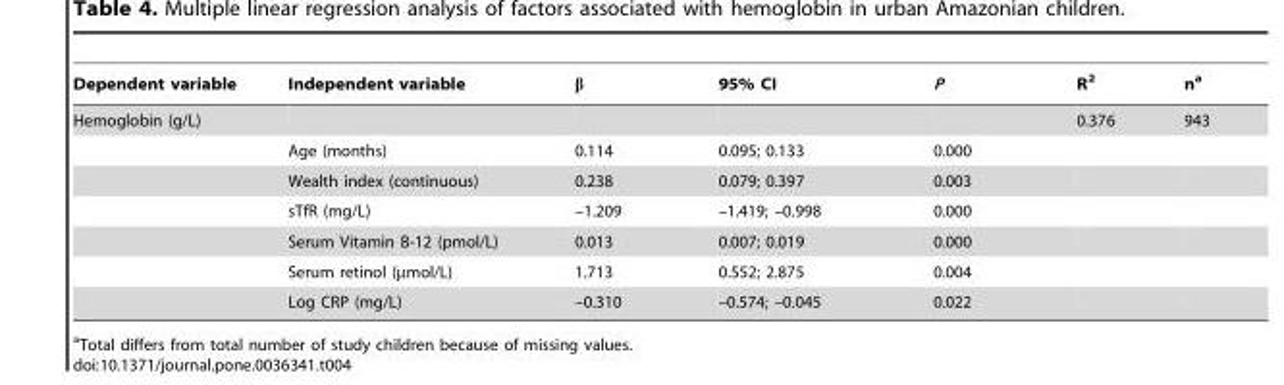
<table><thead><tr><td>Dependent variable</td><td>Independent variable</td><td>β</td><td>95% CI</td><td>P</td><td>R<sup>2</sup></td><td>n<sup>a</sup></td></tr></thead><tbody><tr><td rowspan="7">Hemoglobin (g/L)</td><td></td><td></td><td></td><td></td><td>0.376</td><td>943</td></tr><tr><td>Age (months)</td><td>0.114</td><td>0.095; 0.133</td><td>0.000</td><td></td><td></td></tr><tr><td>Wealth index (continuous)</td><td>0.238</td><td>0.079; 0.397</td><td>0.003</td><td></td><td></td></tr><tr><td>sTfR (mg/L)</td><td>–1.209</td><td>–1.419; –0.998</td><td>0.000</td><td></td><td></td></tr><tr><td>Serum Vitamin B-12 (pmol/L)</td><td>0.013</td><td>0.007; 0.019</td><td>0.000</td><td></td><td></td></tr><tr><td>Serum retinol (µmol/L)</td><td>1.713</td><td>0.552; 2.875</td><td>0.004</td><td></td><td></td></tr><tr><td>Log CRP (mg/L)</td><td>–0.310</td><td>–0.574; –0.045</td><td>0.022</td><td></td><td></td></tr></tbody></table>